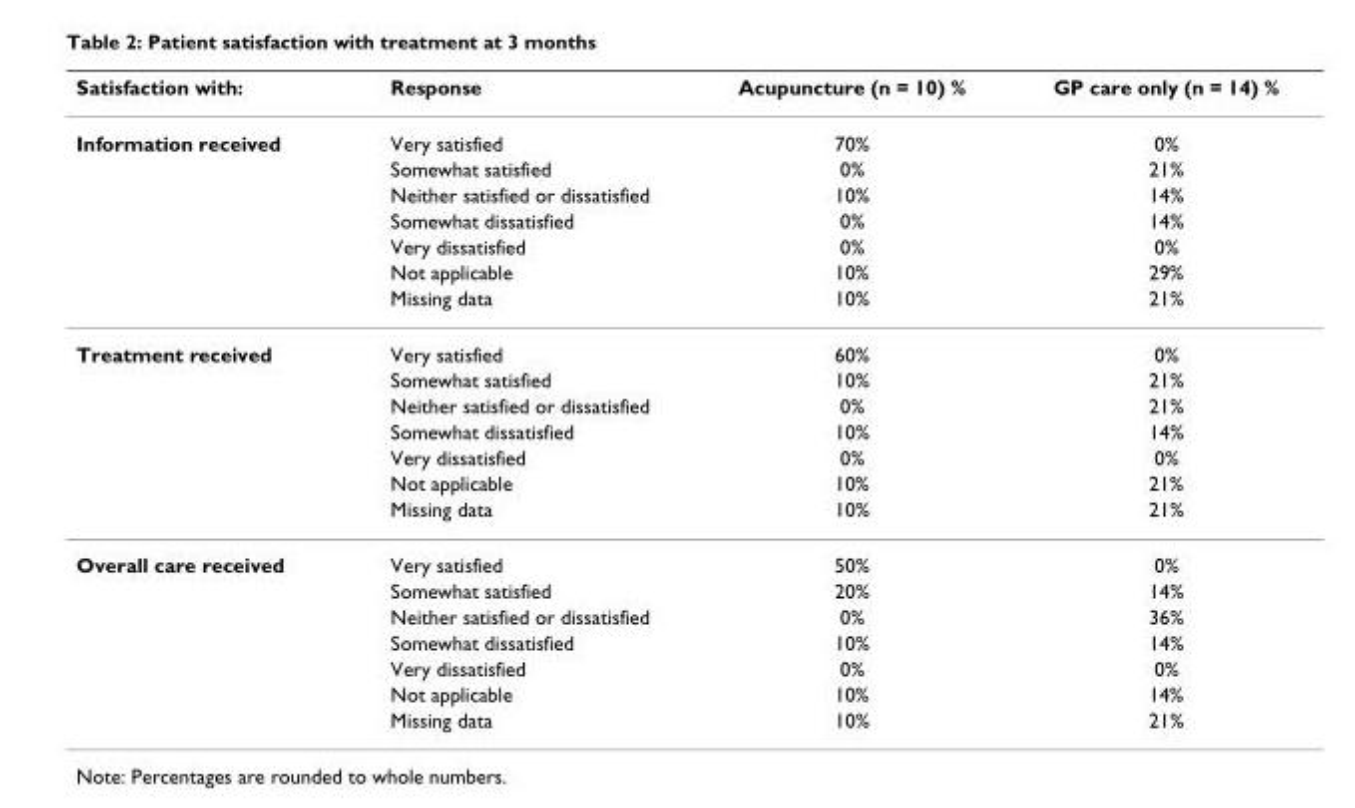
<table><thead><tr><td>Satisfaction with:</td><td>Response</td><td>Acupuncture (n = 10) %</td><td>GP care only (n = 14) %</td></tr></thead><tbody><tr><td rowspan="7">Information received</td><td>Very satisfied</td><td>70%</td><td>0%</td></tr><tr><td>Somewhat satisfied</td><td>0%</td><td>21%</td></tr><tr><td>Neither satisfied or dissatisfied</td><td>10%</td><td>14%</td></tr><tr><td>Somewhat dissatisfied</td><td>0%</td><td>14%</td></tr><tr><td>Very dissatisfied</td><td>0%</td><td>0%</td></tr><tr><td>Not applicable</td><td>10%</td><td>29%</td></tr><tr><td>Missing data</td><td>10%</td><td>21%</td></tr><tr><td rowspan="7">Treatment received</td><td>Very satisfied</td><td>60%</td><td>0%</td></tr><tr><td>Somewhat satisfied</td><td>10%</td><td>21%</td></tr><tr><td>Neither satisfied or dissatisfied</td><td>0%</td><td>21%</td></tr><tr><td>Somewhat dissatisfied</td><td>10%</td><td>14%</td></tr><tr><td>Very dissatisfied</td><td>0%</td><td>0%</td></tr><tr><td>Not applicable</td><td>10%</td><td>21%</td></tr><tr><td>Missing data</td><td>10%</td><td>21%</td></tr><tr><td rowspan="7">Overall care received</td><td>Very satisfied</td><td>50%</td><td>0%</td></tr><tr><td>Somewhat satisfied</td><td>20%</td><td>14%</td></tr><tr><td>Neither satisfied or dissatisfied</td><td>0%</td><td>36%</td></tr><tr><td>Somewhat dissatisfied</td><td>10%</td><td>14%</td></tr><tr><td>Very dissatisfied</td><td>0%</td><td>0%</td></tr><tr><td>Not applicable</td><td>10%</td><td>14%</td></tr><tr><td>Missing data</td><td>10%</td><td>21%</td></tr></tbody></table>